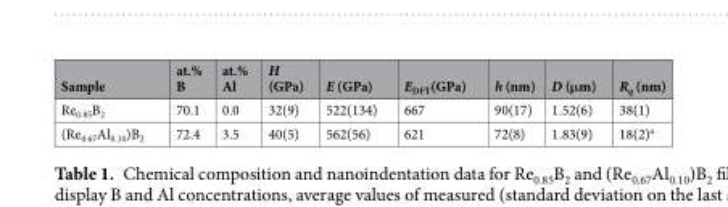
<table><thead><tr><td>Sample</td><td>at.% B</td><td>at.% Al</td><td>H (GPa)</td><td>E (GPa)</td><td>E<sub>DFT</sub>(GPa)</td><td>h (nm)</td><td>D (μm)</td><td>R<sub>q</sub> (nm)</td></tr></thead><tbody><tr><td>Re<sub>0.85</sub>B<sub>2</sub></td><td>70.1</td><td>0.0</td><td>32(9)</td><td>522(134)</td><td>667</td><td>90(17)</td><td>1.52(6)</td><td>38(1)</td></tr><tr><td>(Re<sub>0.67</sub>Al<sub>0.10</sub>)B<sub>2</sub></td><td>72.4</td><td>3.5</td><td>40(5)</td><td>562(56)</td><td>621</td><td>72(8)</td><td>1.83(9)</td><td>18(2)<sup>a</sup></td></tr></tbody></table>